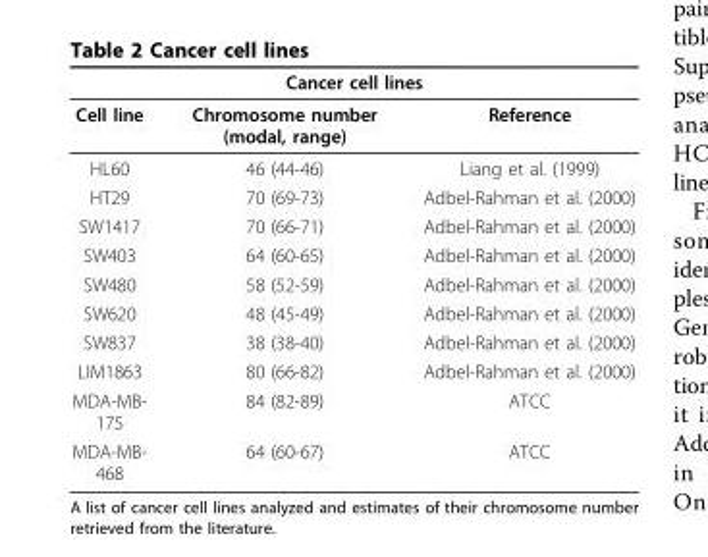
<table><thead><tr><td colspan="3">Cancer cell lines</td></tr><tr><td>Cell line</td><td>Chromosome number (modal, range)</td><td>Reference</td></tr></thead><tbody><tr><td>HL60</td><td>46 (44-46)</td><td>Liang et al. (1999)</td></tr><tr><td>HT29</td><td>70 (69-73)</td><td>Adbel-Rahman et al. (2000)</td></tr><tr><td>SW1417</td><td>70 (66-71)</td><td>Adbel-Rahman et al. (2000)</td></tr><tr><td>SW403</td><td>64 (60-65)</td><td>Adbel-Rahman et al. (2000)</td></tr><tr><td>SW480</td><td>58 (52-59)</td><td>Adbel-Rahman et al. (2000)</td></tr><tr><td>SW620</td><td>48 (45-49)</td><td>Adbel-Rahman et al. (2000)</td></tr><tr><td>SW837</td><td>38 (38-40)</td><td>Adbel-Rahman et al. (2000)</td></tr><tr><td>LIM1863</td><td>80 (66-82)</td><td>Adbel-Rahman et al. (2000)</td></tr><tr><td>MDA-MB- 175</td><td>84 (82-89)</td><td>ATCC</td></tr><tr><td>MDA-MB- 468</td><td>64 (60-67)</td><td>ATCC</td></tr></tbody></table>